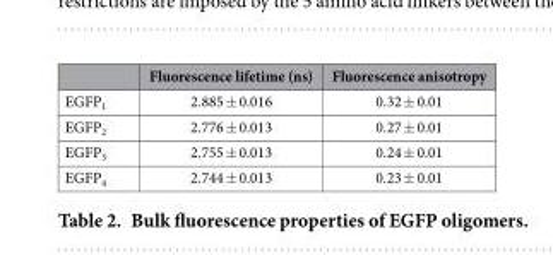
<table><thead><tr><td></td><td>Fluorescence lifetime (ns)</td><td>Fluorescence anisotropy</td></tr></thead><tbody><tr><td>EGFP<sub>1</sub></td><td>2.885 ± 0.016</td><td>0.32 ± 0.01</td></tr><tr><td>EGFP<sub>2</sub></td><td>2.776 ± 0.013</td><td>0.27 ± 0.01</td></tr><tr><td>EGFP<sub>3</sub></td><td>2.755 ± 0.013</td><td>0.24 ± 0.01</td></tr><tr><td>EGFP<sub>4</sub></td><td>2.744 ± 0.013</td><td>0.23 ± 0.01</td></tr></tbody></table>